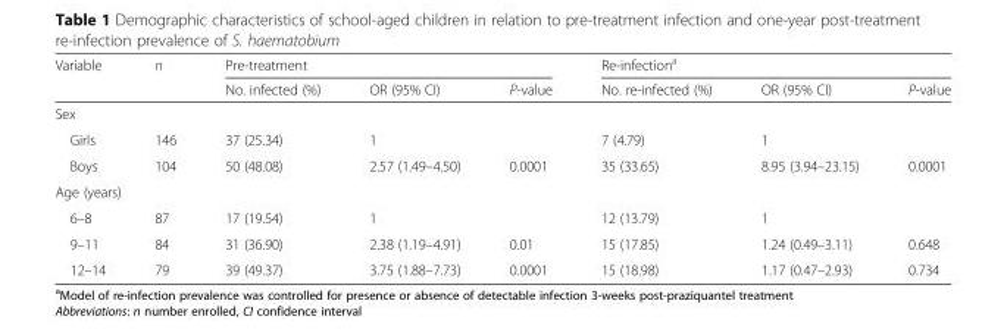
<table><thead><tr><td rowspan="2">Variable</td><td rowspan="2">n</td><td colspan="3">Pre-treatment</td><td colspan="3">Re-infection<sup>a</sup></td></tr><tr><td>No. infected (%)</td><td>OR (95% CI)</td><td>P-value</td><td>No. re-infected (%)</td><td>OR (95% CI)</td><td>P-value</td></tr></thead><tbody><tr><td colspan="8">Sex</td></tr><tr><td>Girls</td><td>146</td><td>37 (25.34)</td><td>1</td><td></td><td>7 (4.79)</td><td>1</td><td></td></tr><tr><td>Boys</td><td>104</td><td>50 (48.08)</td><td>2.57 (1.49–4.50)</td><td>0.0001</td><td>35 (33.65)</td><td>8.95 (3.94–23.15)</td><td>0.0001</td></tr><tr><td colspan="8">Age (years)</td></tr><tr><td>6–8</td><td>87</td><td>17 (19.54)</td><td>1</td><td></td><td>12 (13.79)</td><td>1</td><td></td></tr><tr><td>9–11</td><td>84</td><td>31 (36.90)</td><td>2.38 (1.19–4.91)</td><td>0.01</td><td>15 (17.85)</td><td>1.24 (0.49–3.11)</td><td>0.648</td></tr><tr><td>12–14</td><td>79</td><td>39 (49.37)</td><td>3.75 (1.88–7.73)</td><td>0.0001</td><td>15 (18.98)</td><td>1.17 (0.47–2.93)</td><td>0.734</td></tr></tbody></table>